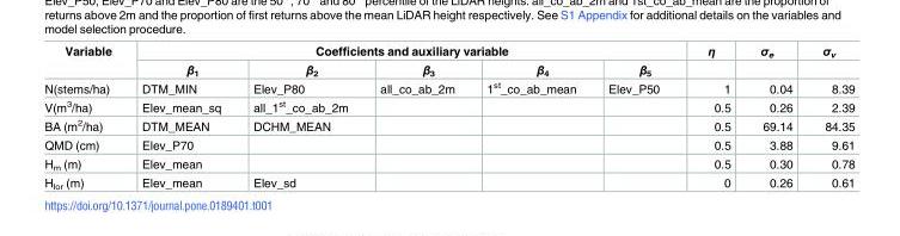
<table><thead><tr><td rowspan="2">Variable</td><td colspan="5">Coefficients and auxiliary variable</td><td rowspan="2">η</td><td rowspan="2">σ<sub>e</sub></td><td rowspan="2">σ<sub>v</sub></td></tr><tr><td>β<sub>1</sub></td><td>β<sub>2</sub></td><td>β<sub>3</sub></td><td>β<sub>4</sub></td><td>β<sub>5</sub></td></tr></thead><tbody><tr><td>N(stems/ha)</td><td>DTM_MIN</td><td>Elev_P80</td><td>all_co_ab_2m</td><td>1<sup>st</sup>_co_ab_mean</td><td>Elev_P50</td><td>1</td><td>0.04</td><td>8.39</td></tr><tr><td>V(m<sup>3</sup>/ha)</td><td>Elev_mean_sq</td><td>all_1<sup>st</sup>_co_ab_2m</td><td></td><td></td><td></td><td>0.5</td><td>0.26</td><td>2.39</td></tr><tr><td>BA (m<sup>2</sup>/ha)</td><td>DTM_MEAN</td><td>DCHM_MEAN</td><td></td><td></td><td></td><td>0.5</td><td>69.14</td><td>84.35</td></tr><tr><td>QMD (cm)</td><td>Elev_P70</td><td></td><td></td><td></td><td></td><td>0.5</td><td>3.88</td><td>9.61</td></tr><tr><td>H<sub>m</sub> (m)</td><td>Elev_mean</td><td></td><td></td><td></td><td></td><td>0.5</td><td>0.30</td><td>0.78</td></tr><tr><td>H<sub>lor</sub> (m)</td><td>Elev_mean</td><td>Elev_sd</td><td></td><td></td><td></td><td>0</td><td>0.26</td><td>0.61</td></tr></tbody></table>